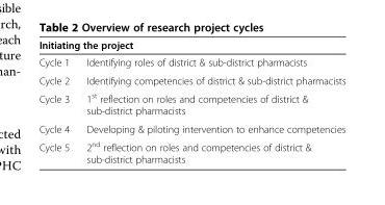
<table><thead><tr><td colspan="2">Initiating the project</td></tr><tr><td>Cycle 1</td><td>Identifying roles of district &amp; sub-district pharmacists</td></tr></thead><tbody><tr><td>Cycle 2</td><td>Identifying competencies of district &amp; sub-district pharmacists</td></tr><tr><td>Cycle 3</td><td>1<sup>st</sup> reflection on roles and competencies of district &amp; sub-district pharmacists</td></tr><tr><td>Cycle 4</td><td>Developing &amp; piloting intervention to enhance competencies</td></tr><tr><td>Cycle 5</td><td>2<sup>nd</sup> reflection on roles and competencies of district &amp; sub-district pharmacists</td></tr></tbody></table>